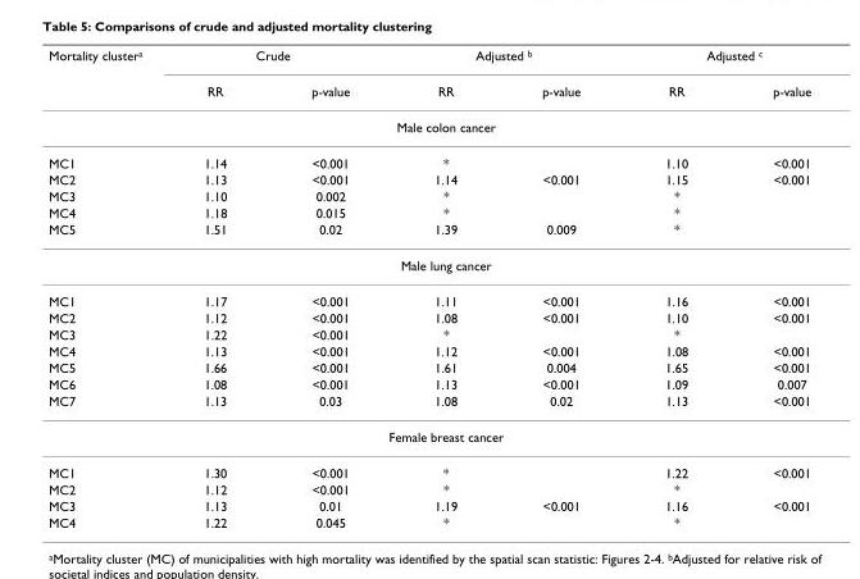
<table><thead><tr><td rowspan="2">Mortality cluster<sup>a</sup></td><td colspan="2">Crude</td><td colspan="2">Adjusted <sup>b</sup></td><td colspan="2">Adjusted <sup>c</sup></td></tr><tr><td>RR</td><td>p-value</td><td>RR</td><td>p-value</td><td>RR</td><td>p-value</td></tr></thead><tbody><tr><td colspan="7">Male colon cancer</td></tr><tr><td>MC1</td><td>1.14</td><td>&lt;0.001</td><td>*</td><td></td><td>1.10</td><td>&lt;0.001</td></tr><tr><td>MC2</td><td>1.13</td><td>&lt;0.001</td><td>1.14</td><td>&lt;0.001</td><td>1.15</td><td>&lt;0.001</td></tr><tr><td>MC3</td><td>1.10</td><td>0.002</td><td>*</td><td></td><td>*</td><td></td></tr><tr><td>MC4</td><td>1.18</td><td>0.015</td><td>*</td><td></td><td>*</td><td></td></tr><tr><td>MC5</td><td>1.51</td><td>0.02</td><td>1.39</td><td>0.009</td><td>*</td><td></td></tr><tr><td colspan="7">Male lung cancer</td></tr><tr><td>MC1</td><td>1.17</td><td>&lt;0.001</td><td>1.11</td><td>&lt;0.001</td><td>1.16</td><td>&lt;0.001</td></tr><tr><td>MC2</td><td>1.12</td><td>&lt;0.001</td><td>1.08</td><td>&lt;0.001</td><td>1.10</td><td>&lt;0.001</td></tr><tr><td>MC3</td><td>1.22</td><td>&lt;0.001</td><td>*</td><td></td><td>*</td><td></td></tr><tr><td>MC4</td><td>1.13</td><td>&lt;0.001</td><td>1.12</td><td>&lt;0.001</td><td>1.08</td><td>&lt;0.001</td></tr><tr><td>MC5</td><td>1.66</td><td>&lt;0.001</td><td>1.61</td><td>0.004</td><td>1.65</td><td>&lt;0.001</td></tr><tr><td>MC6</td><td>1.08</td><td>&lt;0.001</td><td>1.13</td><td>&lt;0.001</td><td>1.09</td><td>0.007</td></tr><tr><td>MC7</td><td>1.13</td><td>0.03</td><td>1.08</td><td>0.02</td><td>1.13</td><td>&lt;0.001</td></tr><tr><td colspan="7">Female breast cancer</td></tr><tr><td>MC1</td><td>1.30</td><td>&lt;0.001</td><td>*</td><td></td><td>1.22</td><td>&lt;0.001</td></tr><tr><td>MC2</td><td>1.12</td><td>&lt;0.001</td><td>*</td><td></td><td>*</td><td></td></tr><tr><td>MC3</td><td>1.13</td><td>0.01</td><td>1.19</td><td>&lt;0.001</td><td>1.16</td><td>&lt;0.001</td></tr><tr><td>MC4</td><td>1.22</td><td>0.045</td><td>*</td><td></td><td>*</td><td></td></tr></tbody></table>